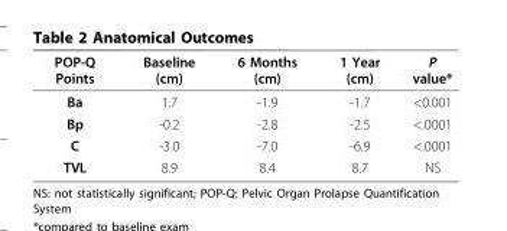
<table><thead><tr><td>POP-Q Points</td><td>Baseline (cm)</td><td>6 Months (cm)</td><td>1 Year (cm)</td><td>P value*</td></tr></thead><tbody><tr><td>Ba</td><td>1.7</td><td>-1.9</td><td>-1.7</td><td>&lt;0.001</td></tr><tr><td>Bp</td><td>-0.2</td><td>-2.8</td><td>-2.5</td><td>&lt;.0001</td></tr><tr><td>C</td><td>-3.0</td><td>-7.0</td><td>-6.9</td><td>&lt;.0001</td></tr><tr><td>TVL</td><td>8.9</td><td>8.4</td><td>8.7</td><td>NS</td></tr></tbody></table>